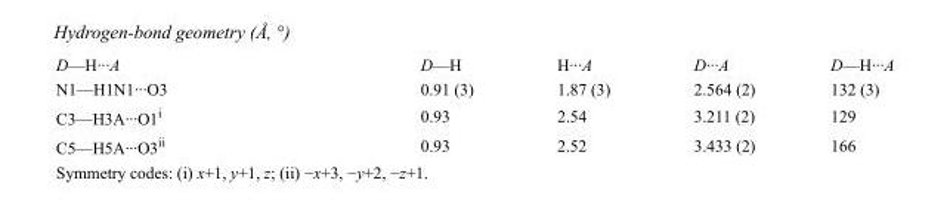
<table><tbody><tr><td>D—H···A</td><td>D—H</td><td>H···A</td><td>D···A</td><td>D—H···A</td></tr><tr><td>N1—H1N1···O3</td><td>0.91 (3)</td><td>1.87 (3)</td><td>2.564 (2)</td><td>132 (3)</td></tr><tr><td>C3—H3A···O1<sup>i</sup></td><td>0.93</td><td>2.54</td><td>3.211 (2)</td><td>129</td></tr><tr><td>C5—H5A···O3<sup>ii</sup></td><td>0.93</td><td>2.52</td><td>3.433 (2)</td><td>166</td></tr></tbody></table>